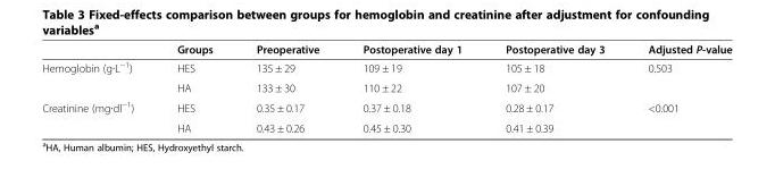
<table><thead><tr><td></td><td>Groups</td><td>Preoperative</td><td>Postoperative day 1</td><td>Postoperative day 3</td><td>Adjusted P-value</td></tr></thead><tbody><tr><td rowspan="2">Hemoglobin (g∙L<sup>−1</sup>)</td><td>HES</td><td>135 ± 29</td><td>109 ± 19</td><td>105 ± 18</td><td rowspan="2">0.503</td></tr><tr><td>HA</td><td>133 ± 30</td><td>110 ± 22</td><td>107 ± 20</td></tr><tr><td rowspan="2">Creatinine (mg∙dl<sup>−1</sup>)</td><td>HES</td><td>0.35 ± 0.17</td><td>0.37 ± 0.18</td><td>0.28 ± 0.17</td><td rowspan="2">&lt;0.001</td></tr><tr><td>HA</td><td>0.43 ± 0.26</td><td>0.45 ± 0.30</td><td>0.41 ± 0.39</td></tr></tbody></table>